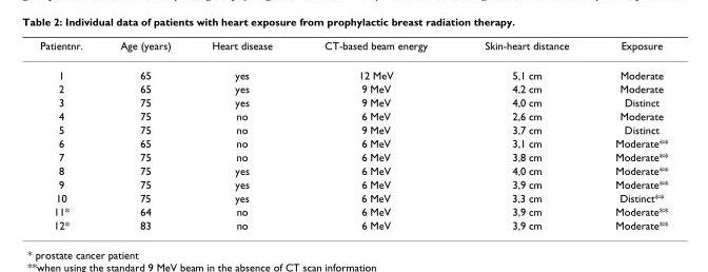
<table><thead><tr><td>Patientnr.</td><td>Age (years)</td><td>Heart disease</td><td>CT-based beam energy</td><td>Skin-heart distance</td><td>Exposure</td></tr></thead><tbody><tr><td>1</td><td>65</td><td>yes</td><td>12 MeV</td><td>5,1 cm</td><td>Moderate</td></tr><tr><td>2</td><td>65</td><td>yes</td><td>9 MeV</td><td>4,2 cm</td><td>Moderate</td></tr><tr><td>3</td><td>75</td><td>yes</td><td>9 MeV</td><td>4,0 cm</td><td>Distinct</td></tr><tr><td>4</td><td>75</td><td>no</td><td>6 MeV</td><td>2,6 cm</td><td>Moderate</td></tr><tr><td>5</td><td>75</td><td>no</td><td>9 MeV</td><td>3,7 cm</td><td>Distinct</td></tr><tr><td>6</td><td>65</td><td>no</td><td>6 MeV</td><td>3,1 cm</td><td>Moderate**</td></tr><tr><td>7</td><td>75</td><td>no</td><td>6 MeV</td><td>3,8 cm</td><td>Moderate**</td></tr><tr><td>8</td><td>75</td><td>yes</td><td>6 MeV</td><td>4,0 cm</td><td>Moderate**</td></tr><tr><td>9</td><td>75</td><td>yes</td><td>6 MeV</td><td>3,9 cm</td><td>Moderate**</td></tr><tr><td>10</td><td>75</td><td>yes</td><td>6 MeV</td><td>3,3 cm</td><td>Distinct**</td></tr><tr><td>11*</td><td>64</td><td>no</td><td>6 MeV</td><td>3,9 cm</td><td>Moderate**</td></tr><tr><td>12*</td><td>83</td><td>no</td><td>6 MeV</td><td>3,9 cm</td><td>Moderate**</td></tr></tbody></table>